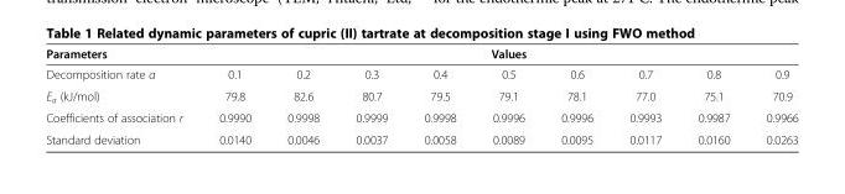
<table><thead><tr><td rowspan="2">Parameters Decomposition rate α</td><td colspan="9">Values</td></tr><tr><td>0.1</td><td>0.2</td><td>0.3</td><td>0.4</td><td>0.5</td><td>0.6</td><td>0.7</td><td>0.8</td><td>0.9</td></tr></thead><tbody><tr><td>E<sub>a</sub> (kJ/mol)</td><td>79.8</td><td>82.6</td><td>80.7</td><td>79.5</td><td>79.1</td><td>78.1</td><td>77.0</td><td>75.1</td><td>70.9</td></tr><tr><td>Coefficients of association r</td><td>0.9990</td><td>0.9998</td><td>0.9999</td><td>0.9998</td><td>0.9996</td><td>0.9996</td><td>0.9993</td><td>0.9987</td><td>0.9966</td></tr><tr><td>Standard deviation</td><td>0.0140</td><td>0.0046</td><td>0.0037</td><td>0.0058</td><td>0.0089</td><td>0.0095</td><td>0.0117</td><td>0.0160</td><td>0.0263</td></tr></tbody></table>